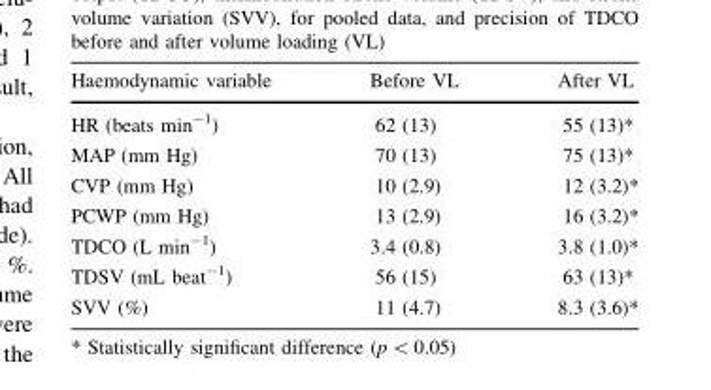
<table><thead><tr><td>Haemodynamic variable</td><td>Before VL</td><td>After VL</td></tr></thead><tbody><tr><td>HR (beats min<sup>-1</sup>)</td><td>62 (13)</td><td>55 (13)*</td></tr><tr><td>MAP (mm Hg)</td><td>70 (13)</td><td>75 (13)*</td></tr><tr><td>CVP (mm Hg)</td><td>10 (2.9)</td><td>12 (3.2)*</td></tr><tr><td>PCWP (mm Hg)</td><td>13 (2.9)</td><td>16 (3.2)*</td></tr><tr><td>TDCO (L min<sup>-1</sup>)</td><td>3.4 (0.8)</td><td>3.8 (1.0)*</td></tr><tr><td>TDSV (mL beat<sup>-1</sup>)</td><td>56 (15)</td><td>63 (13)*</td></tr><tr><td>SVV (%)</td><td>11 (4.7)</td><td>8.3 (3.6)*</td></tr></tbody></table>